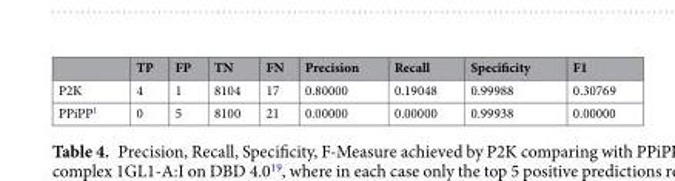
<table><thead><tr><td></td><td>TP</td><td>FP</td><td>TN</td><td>FN</td><td>Precision</td><td>Recall</td><td>Specificity</td><td>F1</td></tr></thead><tbody><tr><td>P2K</td><td>4</td><td>1</td><td>8104</td><td>17</td><td>0.80000</td><td>0.19048</td><td>0.99988</td><td>0.30769</td></tr><tr><td>PPiPP<sup>1</sup></td><td>0</td><td>5</td><td>8100</td><td>21</td><td>0.00000</td><td>0.00000</td><td>0.99938</td><td>0.00000</td></tr></tbody></table>